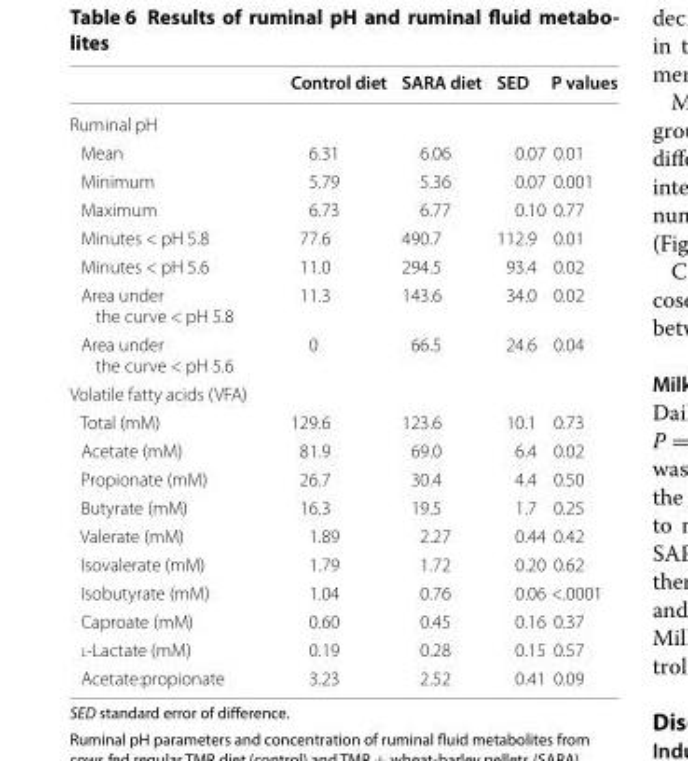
<table><thead><tr><td></td><td>Control diet</td><td>SARA diet</td><td>SED</td><td>P values</td></tr></thead><tbody><tr><td colspan="5">Ruminal pH</td></tr><tr><td>Mean</td><td>6.31</td><td>6.06</td><td>0.07</td><td>0.01</td></tr><tr><td>Minimum</td><td>5.79</td><td>5.36</td><td>0.07</td><td>0.001</td></tr><tr><td>Maximum</td><td>6.73</td><td>6.77</td><td>0.10</td><td>0.77</td></tr><tr><td>Minutes &lt; pH 5.8</td><td>77.6</td><td>490.7</td><td>112.9</td><td>0.01</td></tr><tr><td>Minutes &lt; pH 5.6</td><td>11.0</td><td>294.5</td><td>93.4</td><td>0.02</td></tr><tr><td>Area under the curve &lt; pH 5.8</td><td>11.3</td><td>143.6</td><td>34.0</td><td>0.02</td></tr><tr><td>Area under the curve &lt; pH 5.6</td><td>0</td><td>66.5</td><td>24.6</td><td>0.04</td></tr><tr><td colspan="5">Volatile fatty acids (VFA)</td></tr><tr><td>Total (mM)</td><td>129.6</td><td>123.6</td><td>10.1</td><td>0.73</td></tr><tr><td>Acetate (mM)</td><td>81.9</td><td>69.0</td><td>6.4</td><td>0.02</td></tr><tr><td>Propionate (mM)</td><td>26.7</td><td>30.4</td><td>4.4</td><td>0.50</td></tr><tr><td>Butyrate (mM)</td><td>16.3</td><td>19.5</td><td>1.7</td><td>0.25</td></tr><tr><td>Valerate (mM)</td><td>1.89</td><td>2.27</td><td>0.44</td><td>0.42</td></tr><tr><td>Isovalerate (mM)</td><td>1.79</td><td>1.72</td><td>0.20</td><td>0.62</td></tr><tr><td>Isobutyrate (mM)</td><td>1.04</td><td>0.76</td><td>0.06</td><td>&lt;.0001</td></tr><tr><td>Caproate (mM)</td><td>0.60</td><td>0.45</td><td>0.16</td><td>0.37</td></tr><tr><td>l-Lactate (mM)</td><td>0.19</td><td>0.28</td><td>0.15</td><td>0.57</td></tr><tr><td>Acetate:propionate</td><td>3.23</td><td>2.52</td><td>0.41</td><td>0.09</td></tr></tbody></table>